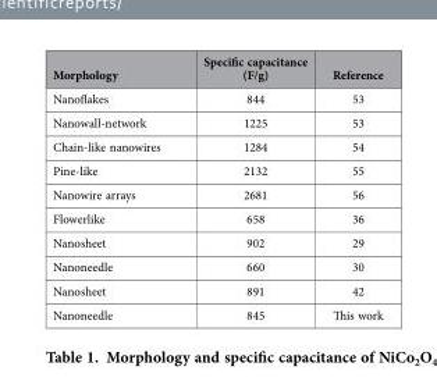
<table><thead><tr><td>Morphology</td><td>Specific capacitance (F/g)</td><td>Reference</td></tr></thead><tbody><tr><td>Nanoflakes</td><td>844</td><td>53</td></tr><tr><td>Nanowall-network</td><td>1225</td><td>53</td></tr><tr><td>Chain-like nanowires</td><td>1284</td><td>54</td></tr><tr><td>Pine-like</td><td>2132</td><td>55</td></tr><tr><td>Nanowire arrays</td><td>2681</td><td>56</td></tr><tr><td>Flowerlike</td><td>658</td><td>36</td></tr><tr><td>Nanosheet</td><td>902</td><td>29</td></tr><tr><td>Nanoneedle</td><td>660</td><td>30</td></tr><tr><td>Nanosheet</td><td>891</td><td>42</td></tr><tr><td>Nanoneedle</td><td>845</td><td>This work</td></tr></tbody></table>